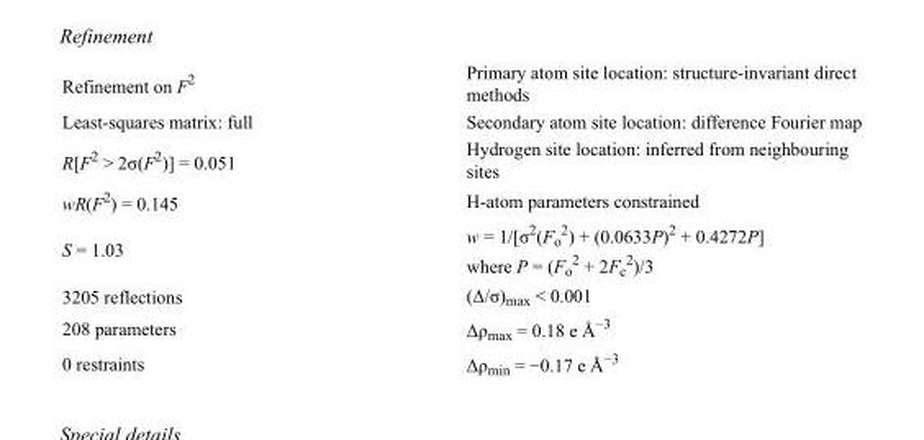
<table><tbody><tr><td>Refinement on F<sup>2</sup></td><td>Primary atom site location: structure-invariant direct methods</td></tr><tr><td>Least-squares matrix: full</td><td>Secondary atom site location: difference Fourier map</td></tr><tr><td>R[F<sup>2</sup> &gt; 2σ(F<sup>2</sup>)] = 0.051</td><td>Hydrogen site location: inferred from neighbouring sites</td></tr><tr><td>wR(F<sup>2</sup>) = 0.145</td><td>H-atom parameters constrained</td></tr><tr><td>S = 1.03</td><td>w = 1/[σ<sup>2</sup>(F<sub>o</sub> <sup>2</sup>) + (0.0633P)<sup>2</sup> + 0.4272P] where P = (F<sub>o</sub> <sup>2</sup> + 2F<sub>c</sub> <sup>2</sup>)/3</td></tr><tr><td>3205 reflections</td><td>(Δ/σ)<sub>max</sub> &lt; 0.001</td></tr><tr><td>208 parameters</td><td>Δρ<sub>max</sub> = 0.18 e Å<sup>−3</sup></td></tr><tr><td>0 restraints</td><td>Δρ<sub>min</sub> = −0.17 e Å<sup>−3</sup></td></tr></tbody></table>